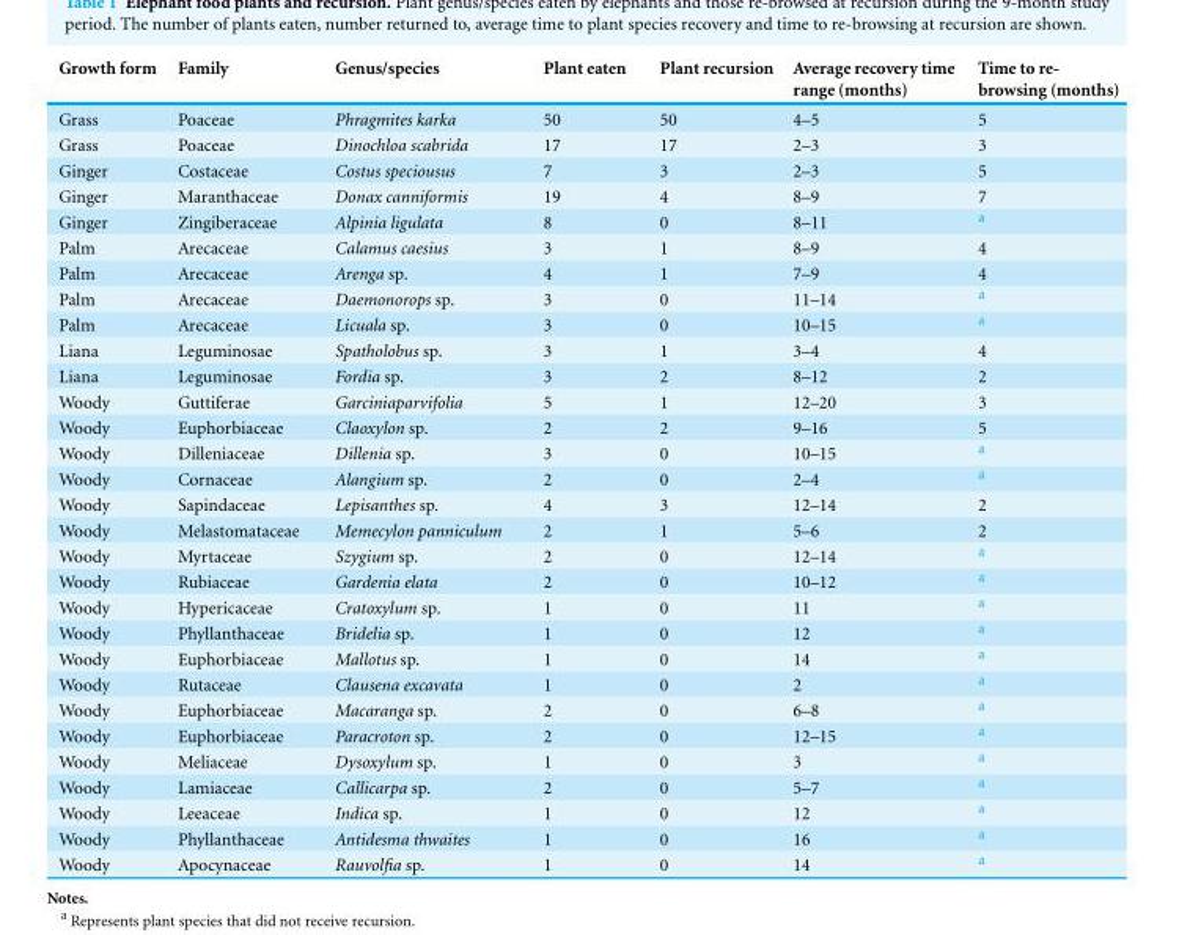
<table><thead><tr><td>Growth form</td><td>Family</td><td>Genus/species</td><td>Plant eaten</td><td>Plant recursion</td><td>Average recovery time range (months)</td><td>Time to re- browsing (months)</td></tr></thead><tbody><tr><td>Grass</td><td>Poaceae</td><td>Phragmites karka</td><td>50</td><td>50</td><td>4–5</td><td>5</td></tr><tr><td>Grass</td><td>Poaceae</td><td>Dinochloa scabrida</td><td>17</td><td>17</td><td>2–3</td><td>3</td></tr><tr><td>Ginger</td><td>Costaceae</td><td>Costus speciousus</td><td>7</td><td>3</td><td>2–3</td><td>5</td></tr><tr><td>Ginger</td><td>Maranthaceae</td><td>Donax canniformis</td><td>19</td><td>4</td><td>8–9</td><td>7</td></tr><tr><td>Ginger</td><td>Zingiberaceae</td><td>Alpinia ligulata</td><td>8</td><td>0</td><td>8–11</td><td><sup>a</sup></td></tr><tr><td>Palm</td><td>Arecaceae</td><td>Calamus caesius</td><td>3</td><td>1</td><td>8–9</td><td>4</td></tr><tr><td>Palm</td><td>Arecaceae</td><td>Arenga sp.</td><td>4</td><td>1</td><td>7–9</td><td>4</td></tr><tr><td>Palm</td><td>Arecaceae</td><td>Daemonorops sp.</td><td>3</td><td>0</td><td>11–14</td><td><sup>a</sup></td></tr><tr><td>Palm</td><td>Arecaceae</td><td>Licuala sp.</td><td>3</td><td>0</td><td>10–15</td><td><sup>a</sup></td></tr><tr><td>Liana</td><td>Leguminosae</td><td>Spatholobus sp.</td><td>3</td><td>1</td><td>3–4</td><td>4</td></tr><tr><td>Liana</td><td>Leguminosae</td><td>Fordia sp.</td><td>3</td><td>2</td><td>8–12</td><td>2</td></tr><tr><td>Woody</td><td>Guttiferae</td><td>Garciniaparvifolia</td><td>5</td><td>1</td><td>12–20</td><td>3</td></tr><tr><td>Woody</td><td>Euphorbiaceae</td><td>Claoxylon sp.</td><td>2</td><td>2</td><td>9–16</td><td>5</td></tr><tr><td>Woody</td><td>Dilleniaceae</td><td>Dillenia sp.</td><td>3</td><td>0</td><td>10–15</td><td><sup>a</sup></td></tr><tr><td>Woody</td><td>Cornaceae</td><td>Alangium sp.</td><td>2</td><td>0</td><td>2–4</td><td><sup>a</sup></td></tr><tr><td>Woody</td><td>Sapindaceae</td><td>Lepisanthes sp.</td><td>4</td><td>3</td><td>12–14</td><td>2</td></tr><tr><td>Woody</td><td>Melastomataceae</td><td>Memecylon panniculum</td><td>2</td><td>1</td><td>5–6</td><td>2</td></tr><tr><td>Woody</td><td>Myrtaceae</td><td>Szygium sp.</td><td>2</td><td>0</td><td>12–14</td><td><sup>a</sup></td></tr><tr><td>Woody</td><td>Rubiaceae</td><td>Gardenia elata</td><td>2</td><td>0</td><td>10–12</td><td><sup>a</sup></td></tr><tr><td>Woody</td><td>Hypericaceae</td><td>Cratoxylum sp.</td><td>1</td><td>0</td><td>11</td><td><sup>a</sup></td></tr><tr><td>Woody</td><td>Phyllanthaceae</td><td>Bridelia sp.</td><td>1</td><td>0</td><td>12</td><td><sup>a</sup></td></tr><tr><td>Woody</td><td>Euphorbiaceae</td><td>Mallotus sp.</td><td>1</td><td>0</td><td>14</td><td><sup>a</sup></td></tr><tr><td>Woody</td><td>Rutaceae</td><td>Clausena excavata</td><td>1</td><td>0</td><td>2</td><td><sup>a</sup></td></tr><tr><td>Woody</td><td>Euphorbiaceae</td><td>Macaranga sp.</td><td>2</td><td>0</td><td>6–8</td><td><sup>a</sup></td></tr><tr><td>Woody</td><td>Euphorbiaceae</td><td>Paracroton sp.</td><td>2</td><td>0</td><td>12–15</td><td><sup>a</sup></td></tr><tr><td>Woody</td><td>Meliaceae</td><td>Dysoxylum sp.</td><td>1</td><td>0</td><td>3</td><td><sup>a</sup></td></tr><tr><td>Woody</td><td>Lamiaceae</td><td>Callicarpa sp.</td><td>2</td><td>0</td><td>5–7</td><td><sup>a</sup></td></tr><tr><td>Woody</td><td>Leeaceae</td><td>Indica sp.</td><td>1</td><td>0</td><td>12</td><td><sup>a</sup></td></tr><tr><td>Woody</td><td>Phyllanthaceae</td><td>Antidesma thwaites</td><td>1</td><td>0</td><td>16</td><td><sup>a</sup></td></tr><tr><td>Woody</td><td>Apocynaceae</td><td>Rauvolfia sp.</td><td>1</td><td>0</td><td>14</td><td><sup>a</sup></td></tr></tbody></table>